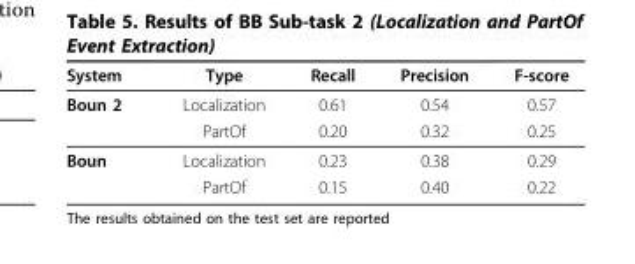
<table><thead><tr><td>System</td><td>Type</td><td>Recall</td><td>Precision</td><td>F-score</td></tr></thead><tbody><tr><td rowspan="2">Boun 2</td><td>Localization</td><td>0.61</td><td>0.54</td><td>0.57</td></tr><tr><td>PartOf</td><td>0.20</td><td>0.32</td><td>0.25</td></tr><tr><td rowspan="2">Boun</td><td>Localization</td><td>0.23</td><td>0.38</td><td>0.29</td></tr><tr><td>PartOf</td><td>0.15</td><td>0.40</td><td>0.22</td></tr></tbody></table>